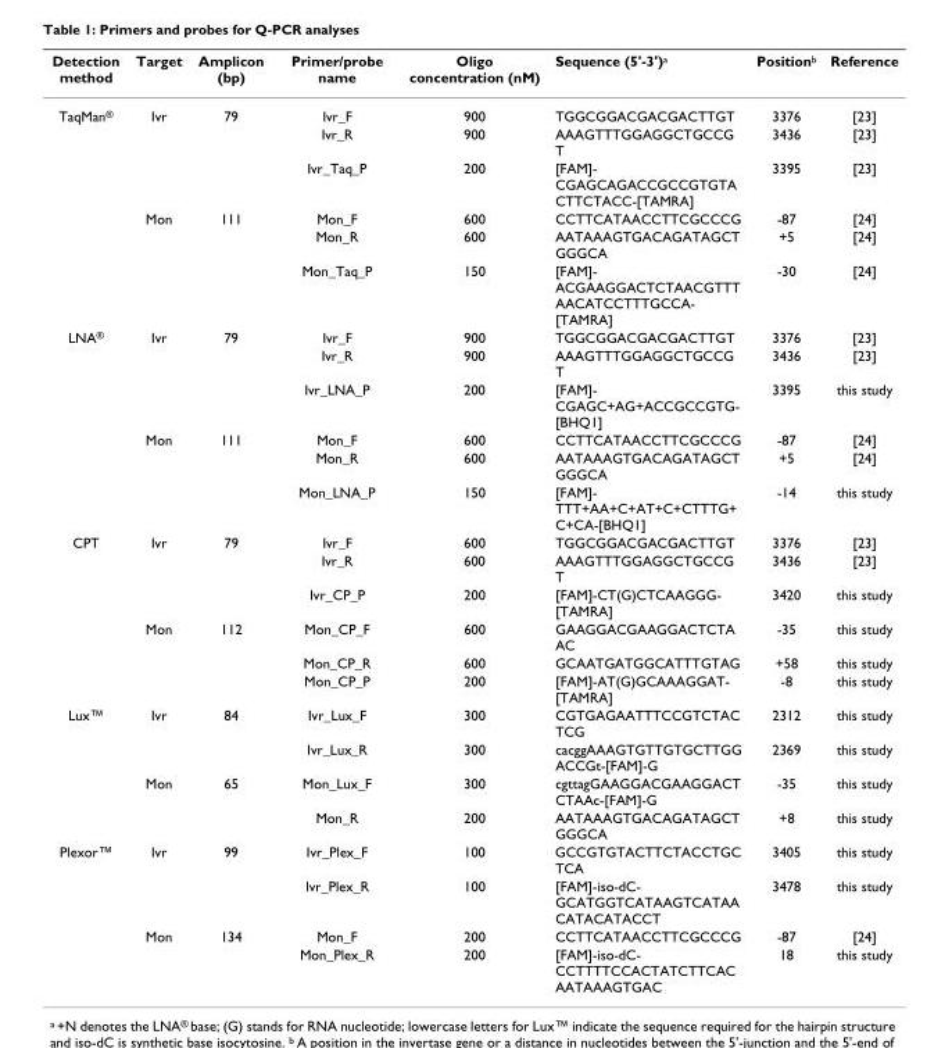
<table><thead><tr><td>Detection method</td><td>Target</td><td>Amplicon (bp)</td><td>Primer/probe name</td><td>Oligo concentration (nM)</td><td>Sequence (5&#x27;-3&#x27;)<sup>a</sup></td><td>Position<sup>b</sup></td><td>Reference</td></tr></thead><tbody><tr><td rowspan="6">TaqMan<sup>®</sup></td><td>Ivr</td><td>79</td><td>Ivr_F</td><td>900</td><td>TGGCGGACGACGACTTGT</td><td>3376</td><td>[23]</td></tr><tr><td></td><td></td><td>Ivr_R</td><td>900</td><td>AAAGTTTGGAGGCTGCCG T</td><td>3436</td><td>[23]</td></tr><tr><td></td><td></td><td>Ivr_Taq_P</td><td>200</td><td>[FAM]- CGAGCAGACCGCCGTGTA CTTCTACC-[TAMRA]</td><td>3395</td><td>[23]</td></tr><tr><td>Mon</td><td>111</td><td>Mon_F</td><td>600</td><td>CCTTCATAACCTTCGCCCG</td><td>-87</td><td>[24]</td></tr><tr><td></td><td></td><td>Mon_R</td><td>600</td><td>AATAAAGTGACAGATAGCT GGGCA</td><td>+5</td><td>[24]</td></tr><tr><td></td><td></td><td>Mon_Taq_P</td><td>150</td><td>[FAM]- ACGAAGGACTCTAACGTTT AACATCCTTTGCCA- [TAMRA]</td><td>-30</td><td>[24]</td></tr><tr><td rowspan="6">LNA<sup>®</sup></td><td>Ivr</td><td>79</td><td>Ivr_F</td><td>900</td><td>TGGCGGACGACGACTTGT</td><td>3376</td><td>[23]</td></tr><tr><td></td><td></td><td>Ivr_R</td><td>900</td><td>AAAGTTTGGAGGCTGCCG T</td><td>3436</td><td>[23]</td></tr><tr><td></td><td></td><td>Ivr_LNA_P</td><td>200</td><td>[FAM]- CGAGC+AG+ACCGCCGTG- [BHQ1]</td><td>3395</td><td>this study</td></tr><tr><td>Mon</td><td>111</td><td>Mon_F</td><td>600</td><td>CCTTCATAACCTTCGCCCG</td><td>-87</td><td>[24]</td></tr><tr><td></td><td></td><td>Mon_R</td><td>600</td><td>AATAAAGTGACAGATAGCT GGGCA</td><td>+5</td><td>[24]</td></tr><tr><td></td><td></td><td>Mon_LNA_P</td><td>150</td><td>[FAM]- TTT+AA+C+AT+C+CTTTG+ C+CA-[BHQ1]</td><td>-14</td><td>this study</td></tr><tr><td rowspan="6">CPT</td><td>Ivr</td><td>79</td><td>Ivr_F</td><td>600</td><td>TGGCGGACGACGACTTGT</td><td>3376</td><td>[23]</td></tr><tr><td></td><td></td><td>Ivr_R</td><td>600</td><td>AAAGTTTGGAGGCTGCCG T</td><td>3436</td><td>[23]</td></tr><tr><td></td><td></td><td>Ivr_CP_P</td><td>200</td><td>[FAM]-CT(G)CTCAAGGG- [TAMRA]</td><td>3420</td><td>this study</td></tr><tr><td>Mon</td><td>112</td><td>Mon_CP_F</td><td>600</td><td>GAAGGACGAAGGACTCTA AC</td><td>-35</td><td>this study</td></tr><tr><td></td><td></td><td>Mon_CP_R</td><td>600</td><td>GCAATGATGGCATTTGTAG</td><td>+58</td><td>this study</td></tr><tr><td></td><td></td><td>Mon_CP_P</td><td>200</td><td>[FAM]-AT(G)GCAAAGGAT- [TAMRA]</td><td>-8</td><td>this study</td></tr><tr><td rowspan="4">Lux™</td><td>Ivr</td><td>84</td><td>Ivr_Lux_F</td><td>300</td><td>CGTGAGAATTTCCGTCTAC TCG</td><td>2312</td><td>this study</td></tr><tr><td></td><td></td><td>Ivr_Lux_R</td><td>300</td><td>cacggAAAGTGTTGTGCTTGG ACCGt-[FAM]-G</td><td>2369</td><td>this study</td></tr><tr><td>Mon</td><td>65</td><td>Mon_Lux_F</td><td>300</td><td>cgttagGAAGGACGAAGGACT CTAAc-[FAM]-G</td><td>-35</td><td>this study</td></tr><tr><td></td><td></td><td>Mon_R</td><td>200</td><td>AATAAAGTGACAGATAGCT GGGCA</td><td>+8</td><td>this study</td></tr><tr><td rowspan="4">Plexor™</td><td>Ivr</td><td>99</td><td>Ivr_Plex_F</td><td>100</td><td>GCCGTGTACTTCTACCTGC TCA</td><td>3405</td><td>this study</td></tr><tr><td></td><td></td><td>Ivr_Plex_R</td><td>100</td><td>[FAM]-iso-dC- GCATGGTCATAAGTCATAA CATACATACCT</td><td>3478</td><td>this study</td></tr><tr><td>Mon</td><td>134</td><td>Mon_F</td><td>200</td><td>CCTTCATAACCTTCGCCCG</td><td>-87</td><td>[24]</td></tr><tr><td></td><td></td><td>Mon_Plex_R</td><td>200</td><td>[FAM]-iso-dC- CCTTTTCCACTATCTTCAC AATAAAGTGAC</td><td>18</td><td>this study</td></tr></tbody></table>